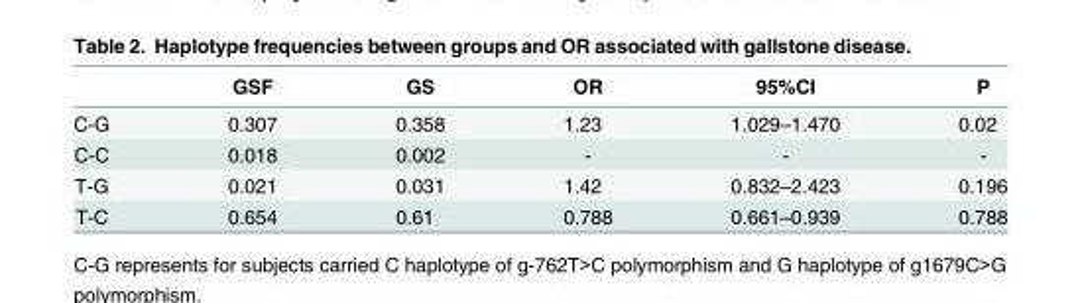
<table><thead><tr><td></td><td>GSF</td><td>GS</td><td>OR</td><td>95%CI</td><td>P</td></tr></thead><tbody><tr><td>C-G</td><td>0.307</td><td>0.358</td><td>1.23</td><td>1.029–1.470</td><td>0.02</td></tr><tr><td>C-C</td><td>0.018</td><td>0.002</td><td>-</td><td>-</td><td>-</td></tr><tr><td>T-G</td><td>0.021</td><td>0.031</td><td>1.42</td><td>0.832–2.423</td><td>0.196</td></tr><tr><td>T-C</td><td>0.654</td><td>0.61</td><td>0.788</td><td>0.661–0.939</td><td>0.788</td></tr></tbody></table>